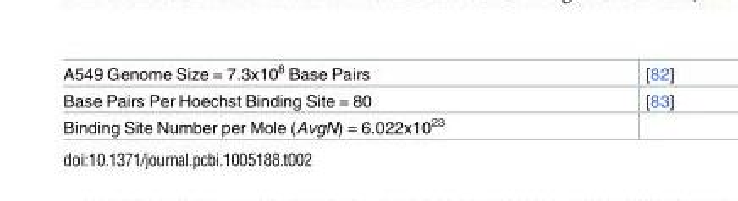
<table><tbody><tr><td>A549 Genome Size = 7.3x10<sup>8</sup> Base Pairs</td><td>[82]</td></tr><tr><td>Base Pairs Per Hoechst Binding Site = 80</td><td>[83]</td></tr><tr><td>Binding Site Number per Mole (AvgN) = 6.022x10<sup>23</sup></td><td></td></tr></tbody></table>